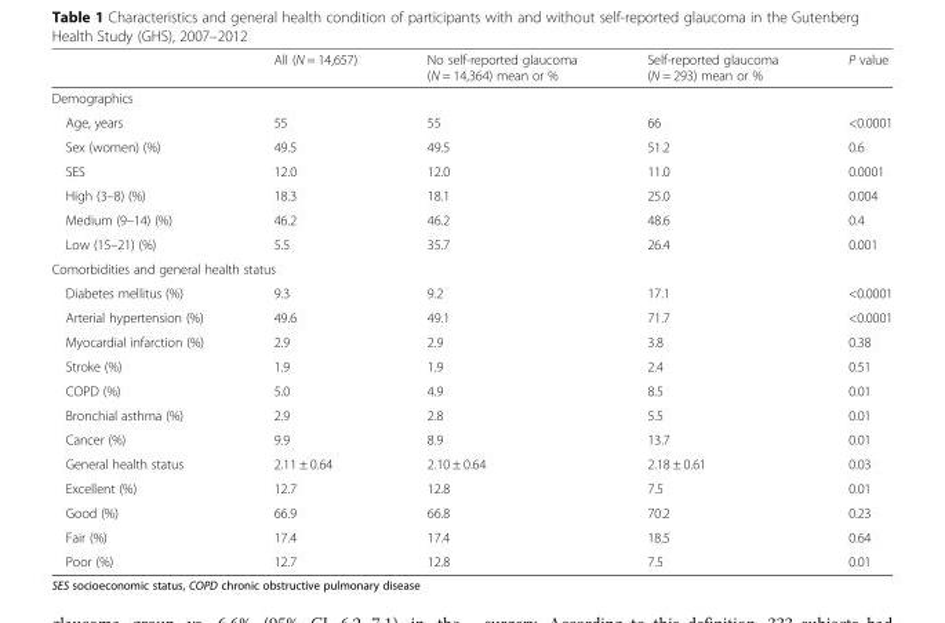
<table><thead><tr><td></td><td>All (N = 14,657)</td><td>No self-reported glaucoma (N = 14,364) mean or %</td><td>Self-reported glaucoma (N = 293) mean or %</td><td>P value</td></tr></thead><tbody><tr><td colspan="5">Demographics</td></tr><tr><td>Age, years</td><td>55</td><td>55</td><td>66</td><td>&lt;0.0001</td></tr><tr><td>Sex (women) (%)</td><td>49.5</td><td>49.5</td><td>51.2</td><td>0.6</td></tr><tr><td>SES</td><td>12.0</td><td>12.0</td><td>11.0</td><td>0.0001</td></tr><tr><td>High (3–8) (%)</td><td>18.3</td><td>18.1</td><td>25.0</td><td>0.004</td></tr><tr><td>Medium (9–14) (%)</td><td>46.2</td><td>46.2</td><td>48.6</td><td>0.4</td></tr><tr><td>Low (15–21) (%)</td><td>5.5</td><td>35.7</td><td>26.4</td><td>0.001</td></tr><tr><td colspan="5">Comorbidities and general health status</td></tr><tr><td>Diabetes mellitus (%)</td><td>9.3</td><td>9.2</td><td>17.1</td><td>&lt;0.0001</td></tr><tr><td>Arterial hypertension (%)</td><td>49.6</td><td>49.1</td><td>71.7</td><td>&lt;0.0001</td></tr><tr><td>Myocardial infarction (%)</td><td>2.9</td><td>2.9</td><td>3.8</td><td>0.38</td></tr><tr><td>Stroke (%)</td><td>1.9</td><td>1.9</td><td>2.4</td><td>0.51</td></tr><tr><td>COPD (%)</td><td>5.0</td><td>4.9</td><td>8.5</td><td>0.01</td></tr><tr><td>Bronchial asthma (%)</td><td>2.9</td><td>2.8</td><td>5.5</td><td>0.01</td></tr><tr><td>Cancer (%)</td><td>9.9</td><td>8.9</td><td>13.7</td><td>0.01</td></tr><tr><td>General health status</td><td>2.11 ± 0.64</td><td>2.10 ± 0.64</td><td>2.18 ± 0.61</td><td>0.03</td></tr><tr><td>Excellent (%)</td><td>12.7</td><td>12.8</td><td>7.5</td><td>0.01</td></tr><tr><td>Good (%)</td><td>66.9</td><td>66.8</td><td>70.2</td><td>0.23</td></tr><tr><td>Fair (%)</td><td>17.4</td><td>17.4</td><td>18.5</td><td>0.64</td></tr><tr><td>Poor (%)</td><td>12.7</td><td>12.8</td><td>7.5</td><td>0.01</td></tr></tbody></table>